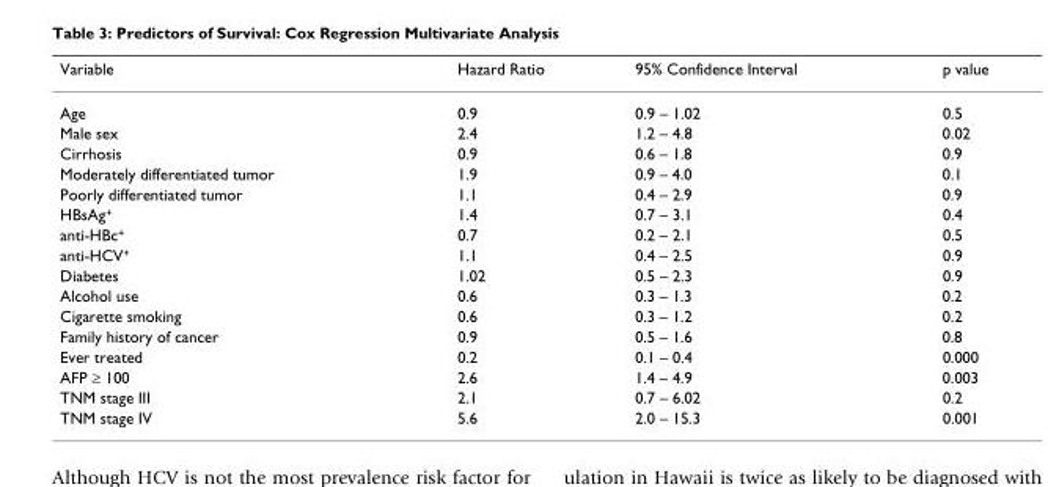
<table><thead><tr><td>Variable</td><td>Hazard Ratio</td><td>95% Confidence Interval</td><td>p value</td></tr></thead><tbody><tr><td>Age</td><td>0.9</td><td>0.9 – 1.02</td><td>0.5</td></tr><tr><td>Male sex</td><td>2.4</td><td>1.2 – 4.8</td><td>0.02</td></tr><tr><td>Cirrhosis</td><td>0.9</td><td>0.6 – 1.8</td><td>0.9</td></tr><tr><td>Moderately differentiated tumor</td><td>1.9</td><td>0.9 – 4.0</td><td>0.1</td></tr><tr><td>Poorly differentiated tumor</td><td>1.1</td><td>0.4 – 2.9</td><td>0.9</td></tr><tr><td>HBsAg<sup>+</sup></td><td>1.4</td><td>0.7 – 3.1</td><td>0.4</td></tr><tr><td>anti-HBc<sup>+</sup></td><td>0.7</td><td>0.2 – 2.1</td><td>0.5</td></tr><tr><td>anti-HCV<sup>+</sup></td><td>1.1</td><td>0.4 – 2.5</td><td>0.9</td></tr><tr><td>Diabetes</td><td>1.02</td><td>0.5 – 2.3</td><td>0.9</td></tr><tr><td>Alcohol use</td><td>0.6</td><td>0.3 – 1.3</td><td>0.2</td></tr><tr><td>Cigarette smoking</td><td>0.6</td><td>0.3 – 1.2</td><td>0.2</td></tr><tr><td>Family history of cancer</td><td>0.9</td><td>0.5 – 1.6</td><td>0.8</td></tr><tr><td>Ever treated</td><td>0.2</td><td>0.1 – 0.4</td><td>0.000</td></tr><tr><td>AFP ≥ 100</td><td>2.6</td><td>1.4 – 4.9</td><td>0.003</td></tr><tr><td>TNM stage III</td><td>2.1</td><td>0.7 – 6.02</td><td>0.2</td></tr><tr><td>TNM stage IV</td><td>5.6</td><td>2.0 – 15.3</td><td>0.001</td></tr></tbody></table>